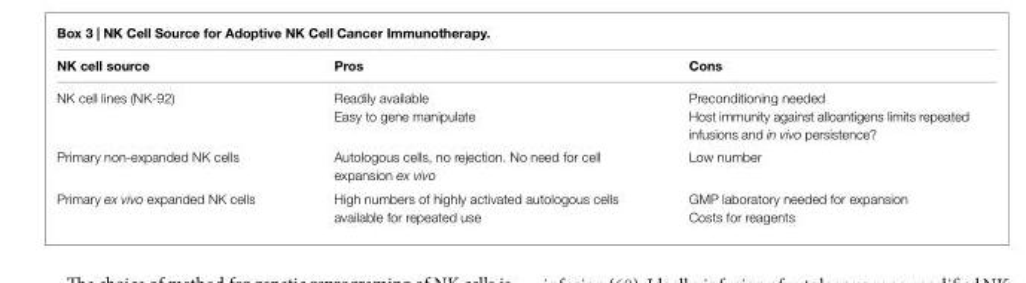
<table><thead><tr><td>NK cell source</td><td>Pros</td><td>Cons</td></tr></thead><tbody><tr><td rowspan="2">NK cell lines (NK-92)</td><td>Readily available</td><td>Preconditioning needed</td></tr><tr><td>Easy to gene manipulate</td><td>Host immunity against alloantigens limits repeated infusions and in vivo persistence?</td></tr><tr><td>Primary non-expanded NK cells</td><td>Autologous cells, no rejection. No need for cell expansion ex vivo</td><td>Low number</td></tr><tr><td rowspan="2">Primary ex vivo expanded NK cells</td><td rowspan="2">High numbers of highly activated autologous cells available for repeated use</td><td>GMP laboratory needed for expansion</td></tr><tr><td>Costs for reagents</td></tr></tbody></table>